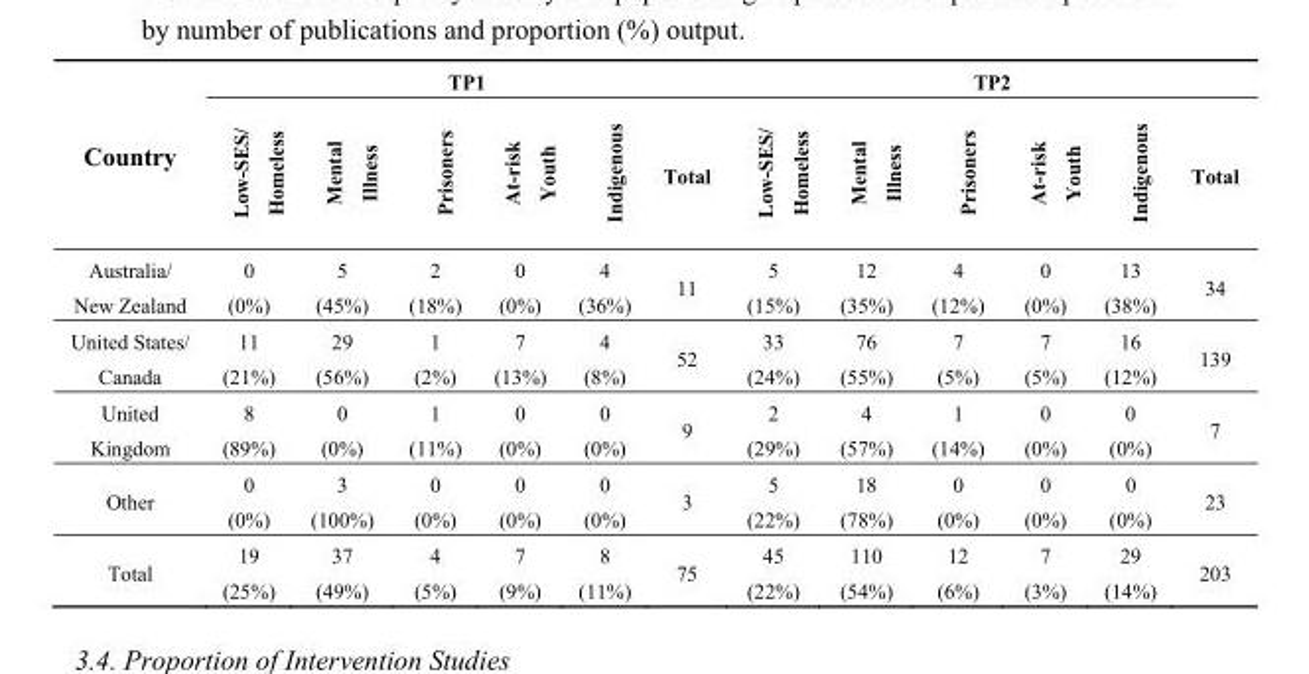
<table><thead><tr><td rowspan="2">Country</td><td colspan="6">TP1</td><td colspan="6">TP2</td></tr><tr><td>Low-SES/ Homeless</td><td>Mental Illness</td><td>Prisoners</td><td>At-risk Youth</td><td>Indigenous</td><td>Total</td><td>Low-SES/ Homeless</td><td>Mental Illness</td><td>Prisoners</td><td>At-risk Youth</td><td>Indigenous</td><td>Total</td></tr></thead><tbody><tr><td>Australia/ New Zealand</td><td>0 (0%)</td><td>5 (45%)</td><td>2 (18%)</td><td>0 (0%)</td><td>4 (36%)</td><td>11</td><td>5 (15%)</td><td>12 (35%)</td><td>4 (12%)</td><td>0 (0%)</td><td>13 (38%)</td><td>34</td></tr><tr><td>United States/ Canada</td><td>11 (21%)</td><td>29 (56%)</td><td>1 (2%)</td><td>7 (13%)</td><td>4 (8%)</td><td>52</td><td>33 (24%)</td><td>76 (55%)</td><td>7 (5%)</td><td>7 (5%)</td><td>16 (12%)</td><td>139</td></tr><tr><td>United Kingdom</td><td>8 (89%)</td><td>0 (0%)</td><td>1 (11%)</td><td>0 (0%)</td><td>0 (0%)</td><td>9</td><td>2 (29%)</td><td>4 (57%)</td><td>1 (14%)</td><td>0 (0%)</td><td>0 (0%)</td><td>7</td></tr><tr><td>Other</td><td>0 (0%)</td><td>3 (100%)</td><td>0 (0%)</td><td>0 (0%)</td><td>0 (0%)</td><td>3</td><td>5 (22%)</td><td>18 (78%)</td><td>0 (0%)</td><td>0 (0%)</td><td>0 (0%)</td><td>23</td></tr><tr><td>Total</td><td>19 (25%)</td><td>37 (49%)</td><td>4 (5%)</td><td>7 (9%)</td><td>8 (11%)</td><td>75</td><td>45 (22%)</td><td>110 (54%)</td><td>12 (6%)</td><td>7 (3%)</td><td>29 (14%)</td><td>203</td></tr></tbody></table>